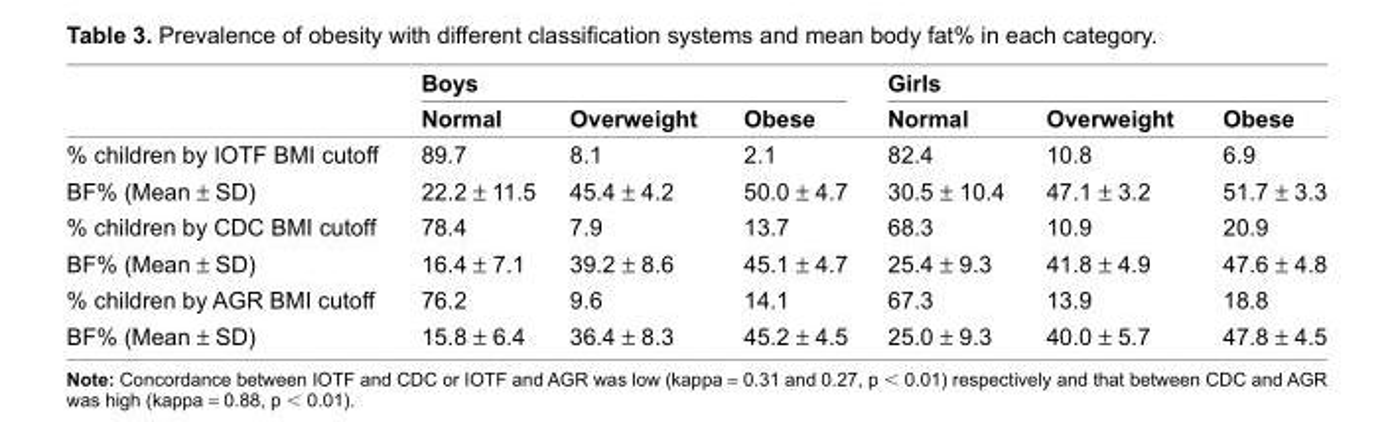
<table><thead><tr><td rowspan="2"></td><td colspan="3">Boys</td><td colspan="3">Girls</td></tr><tr><td>normal</td><td>Overweight</td><td>Obese</td><td>normal</td><td>Overweight</td><td>Obese</td></tr></thead><tbody><tr><td>% children by IOTF BMI cutoff</td><td>89.7</td><td>8.1</td><td>2.1</td><td>82.4</td><td>10.8</td><td>6.9</td></tr><tr><td>BF% (Mean ± sD)</td><td>22.2 ± 11.5</td><td>45.4 ± 4.2</td><td>50.0 ± 4.7</td><td>30.5 ± 10.4</td><td>47.1 ± 3.2</td><td>51.7 ± 3.3</td></tr><tr><td>% children by CDC BMI cutoff</td><td>78.4</td><td>7.9</td><td>13.7</td><td>68.3</td><td>10.9</td><td>20.9</td></tr><tr><td>BF% (Mean ± sD)</td><td>16.4 ± 7.1</td><td>39.2 ± 8.6</td><td>45.1 ± 4.7</td><td>25.4 ± 9.3</td><td>41.8 ± 4.9</td><td>47.6 ± 4.8</td></tr><tr><td>% children by AGR BMI cutoff</td><td>76.2</td><td>9.6</td><td>14.1</td><td>67.3</td><td>13.9</td><td>18.8</td></tr><tr><td>BF% (Mean ± sD)</td><td>15.8 ± 6.4</td><td>36.4 ± 8.3</td><td>45.2 ± 4.5</td><td>25.0 ± 9.3</td><td>40.0 ± 5.7</td><td>47.8 ± 4.5</td></tr></tbody></table>